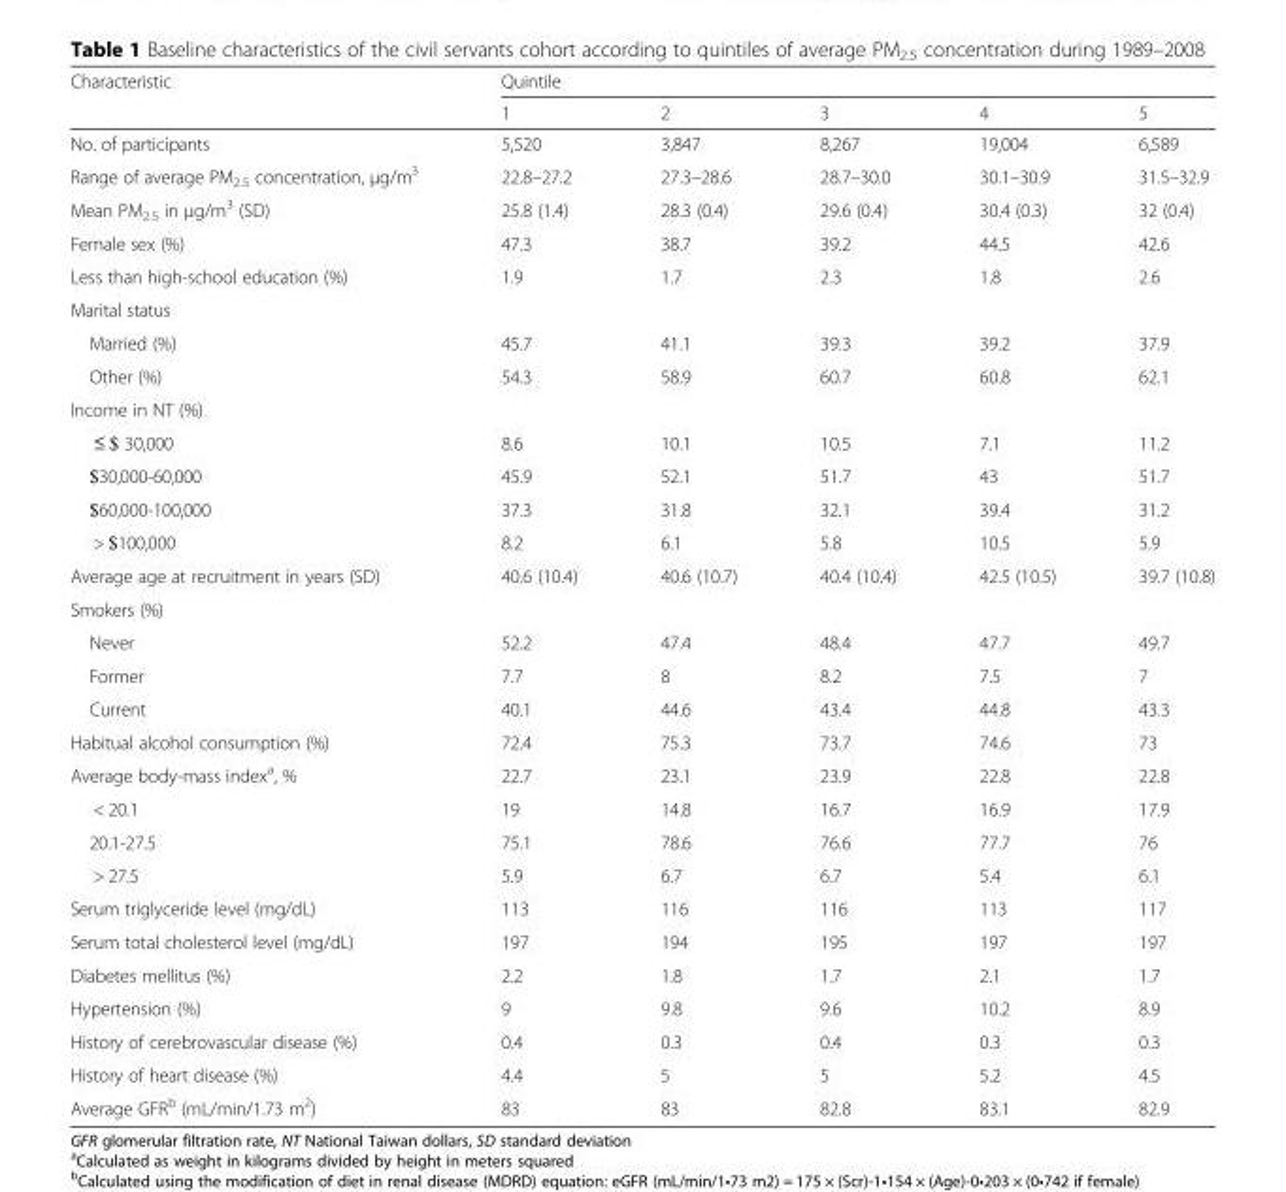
<table><thead><tr><td rowspan="2">Characteristic</td><td colspan="5">Quintile</td></tr><tr><td>1</td><td>2</td><td>3</td><td>4</td><td>5</td></tr></thead><tbody><tr><td>No. of participants</td><td>5,520</td><td>3,847</td><td>8,267</td><td>19,004</td><td>6,589</td></tr><tr><td>Range of average PM<sub>2.5</sub> concentration, μg/m<sup>3</sup></td><td>22.8–27.2</td><td>27.3–28.6</td><td>28.7–30.0</td><td>30.1–30.9</td><td>31.5–32.9</td></tr><tr><td>Mean PM<sub>2.5</sub> in μg/m<sup>3</sup> (SD)</td><td>25.8 (1.4)</td><td>28.3 (0.4)</td><td>29.6 (0.4)</td><td>30.4 (0.3)</td><td>32 (0.4)</td></tr><tr><td>Female sex (%)</td><td>47.3</td><td>38.7</td><td>39.2</td><td>44.5</td><td>42.6</td></tr><tr><td>Less than high-school education (%)</td><td>1.9</td><td>1.7</td><td>2.3</td><td>1.8</td><td>2.6</td></tr><tr><td colspan="6">Marital status</td></tr><tr><td>Married (%)</td><td>45.7</td><td>41.1</td><td>39.3</td><td>39.2</td><td>37.9</td></tr><tr><td>Other (%)</td><td>54.3</td><td>58.9</td><td>60.7</td><td>60.8</td><td>62.1</td></tr><tr><td colspan="6">Income in NT (%)</td></tr><tr><td>≤ $ 30,000</td><td>8.6</td><td>10.1</td><td>10.5</td><td>7.1</td><td>11.2</td></tr><tr><td>$30,000-60,000</td><td>45.9</td><td>52.1</td><td>51.7</td><td>43</td><td>51.7</td></tr><tr><td>$60,000-100,000</td><td>37.3</td><td>31.8</td><td>32.1</td><td>39.4</td><td>31.2</td></tr><tr><td>&gt; $100,000</td><td>8.2</td><td>6.1</td><td>5.8</td><td>10.5</td><td>5.9</td></tr><tr><td>Average age at recruitment in years (SD)</td><td>40.6 (10.4)</td><td>40.6 (10.7)</td><td>40.4 (10.4)</td><td>42.5 (10.5)</td><td>39.7 (10.8)</td></tr><tr><td colspan="6">Smokers (%)</td></tr><tr><td>Never</td><td>52.2</td><td>47.4</td><td>48.4</td><td>47.7</td><td>49.7</td></tr><tr><td>Former</td><td>7.7</td><td>8</td><td>8.2</td><td>7.5</td><td>7</td></tr><tr><td>Current</td><td>40.1</td><td>44.6</td><td>43.4</td><td>44.8</td><td>43.3</td></tr><tr><td>Habitual alcohol consumption (%)</td><td>72.4</td><td>75.3</td><td>73.7</td><td>74.6</td><td>73</td></tr><tr><td>Average body-mass index<sup>a</sup>, %</td><td>22.7</td><td>23.1</td><td>23.9</td><td>22.8</td><td>22.8</td></tr><tr><td>&lt; 20.1</td><td>19</td><td>14.8</td><td>16.7</td><td>16.9</td><td>17.9</td></tr><tr><td>20.1-27.5</td><td>75.1</td><td>78.6</td><td>76.6</td><td>77.7</td><td>76</td></tr><tr><td>&gt; 27.5</td><td>5.9</td><td>6.7</td><td>6.7</td><td>5.4</td><td>6.1</td></tr><tr><td>Serum triglyceride level (mg/dL)</td><td>113</td><td>116</td><td>116</td><td>113</td><td>117</td></tr><tr><td>Serum total cholesterol level (mg/dL)</td><td>197</td><td>194</td><td>195</td><td>197</td><td>197</td></tr><tr><td>Diabetes mellitus (%)</td><td>2.2</td><td>1.8</td><td>1.7</td><td>2.1</td><td>1.7</td></tr><tr><td>Hypertension (%)</td><td>9</td><td>9.8</td><td>9.6</td><td>10.2</td><td>8.9</td></tr><tr><td>History of cerebrovascular disease (%)</td><td>0.4</td><td>0.3</td><td>0.4</td><td>0.3</td><td>0.3</td></tr><tr><td>History of heart disease (%)</td><td>4.4</td><td>5</td><td>5</td><td>5.2</td><td>4.5</td></tr><tr><td>Average GFR<sup>b</sup> (mL/min/1.73 m<sup>2</sup>)</td><td>83</td><td>83</td><td>82.8</td><td>83.1</td><td>82.9</td></tr></tbody></table>